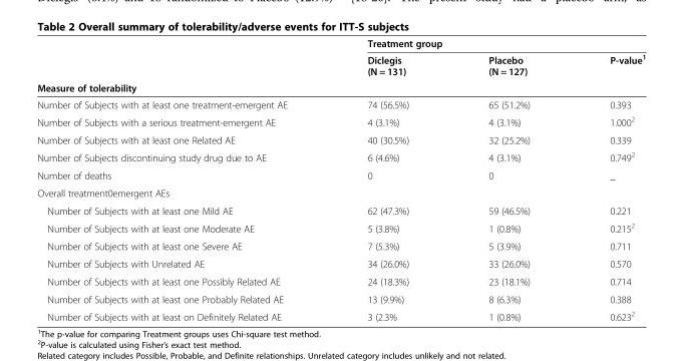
<table><thead><tr><td rowspan="3">Measure of tolerability</td><td colspan="3">Treatment group</td></tr><tr><td rowspan="2">Diclegis (N = 131)</td><td rowspan="2">Placebo (N = 127)</td><td rowspan="2">P-value<sup>1</sup></td></tr><tr></tr></thead><tbody><tr><td>Number of Subjects with at least one treatment-emergent AE</td><td>74 (56.5%)</td><td>65 (51.2%)</td><td>0.393</td></tr><tr><td>Number of Subjects with a serious treatment-emergent AE</td><td>4 (3.1%)</td><td>4 (3.1%)</td><td>1.000<sup>2</sup></td></tr><tr><td>Number of Subjects with at least one Related AE</td><td>40 (30.5%)</td><td>32 (25.2%)</td><td>0.339</td></tr><tr><td>Number of Subjects discontinuing study drug due to AE</td><td>6 (4.6%)</td><td>4 (3.1%)</td><td>0.749<sup>2</sup></td></tr><tr><td>Number of deaths</td><td>0</td><td>0</td><td>_</td></tr><tr><td colspan="4">Overall treatment0emergent AEs</td></tr><tr><td>Number of Subjects with at least one Mild AE</td><td>62 (47.3%)</td><td>59 (46.5%)</td><td>0.221</td></tr><tr><td>Number of Subjects with at least one Moderate AE</td><td>5 (3.8%)</td><td>1 (0.8%)</td><td>0.215<sup>2</sup></td></tr><tr><td>Number of Subjects with at least one Severe AE</td><td>7 (5.3%)</td><td>5 (3.9%)</td><td>0.711</td></tr><tr><td>Number of Subjects with Unrelated AE</td><td>34 (26.0%)</td><td>33 (26.0%)</td><td>0.570</td></tr><tr><td>Number of Subjects with at least one Possibly Related AE</td><td>24 (18.3%)</td><td>23 (18.1%)</td><td>0.714</td></tr><tr><td>Number of Subjects with at least one Probably Related AE</td><td>13 (9.9%)</td><td>8 (6.3%)</td><td>0.388</td></tr><tr><td>Number of Subjects with at least on Definitely Related AE</td><td>3 (2.3%</td><td>1 (0.8%)</td><td>0.623<sup>2</sup></td></tr></tbody></table>